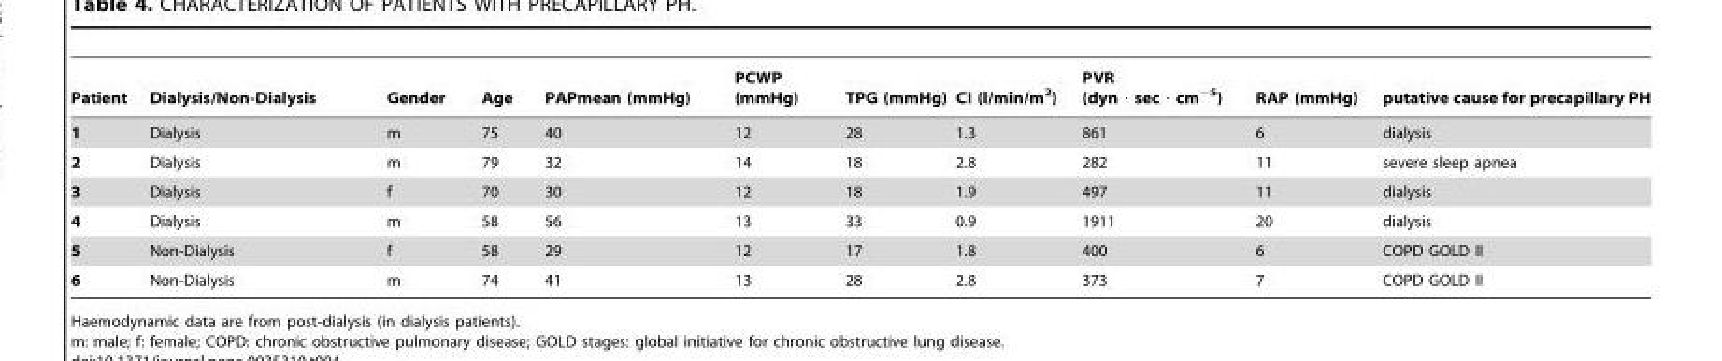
<table><thead><tr><td>Patient</td><td>Dialysis/Non-Dialysis</td><td>Gender</td><td>Age</td><td>PAPmean (mmHg)</td><td>PCWP (mmHg)</td><td>TPG (mmHg)</td><td>CI (l/min/m<sup>2</sup>)</td><td>PVR (dyn · sec · cm<sup>−5</sup>)</td><td>RAP (mmHg)</td><td>putative cause for precapillary PH</td></tr></thead><tbody><tr><td>1</td><td>Dialysis</td><td>m</td><td>75</td><td>40</td><td>12</td><td>28</td><td>1.3</td><td>861</td><td>6</td><td>dialysis</td></tr><tr><td>2</td><td>Dialysis</td><td>m</td><td>79</td><td>32</td><td>14</td><td>18</td><td>2.8</td><td>282</td><td>11</td><td>severe sleep apnea</td></tr><tr><td>3</td><td>Dialysis</td><td>f</td><td>70</td><td>30</td><td>12</td><td>18</td><td>1.9</td><td>497</td><td>11</td><td>dialysis</td></tr><tr><td>4</td><td>Dialysis</td><td>m</td><td>58</td><td>56</td><td>13</td><td>33</td><td>0.9</td><td>1911</td><td>20</td><td>dialysis</td></tr><tr><td>5</td><td>Non-Dialysis</td><td>f</td><td>58</td><td>29</td><td>12</td><td>17</td><td>1.8</td><td>400</td><td>6</td><td>COPD GOLD II</td></tr><tr><td>6</td><td>Non-Dialysis</td><td>m</td><td>74</td><td>41</td><td>13</td><td>28</td><td>2.8</td><td>373</td><td>7</td><td>COPD GOLD II</td></tr></tbody></table>